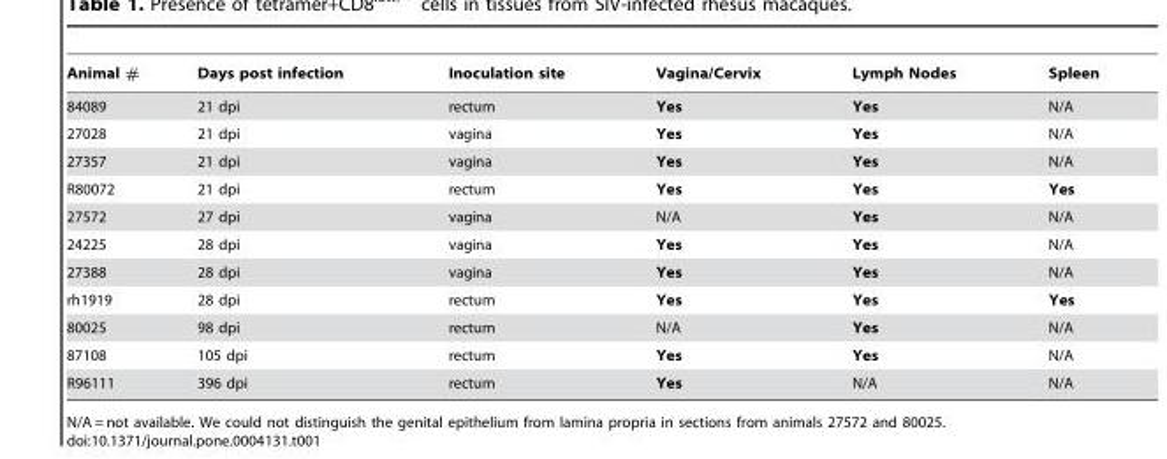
<table><thead><tr><td>Animal #</td><td>Days post infection</td><td>Inoculation site</td><td>Vagina/Cervix</td><td>Lymph Nodes</td><td>Spleen</td></tr></thead><tbody><tr><td>84089</td><td>21 dpi</td><td>rectum</td><td>Yes</td><td>Yes</td><td>N/A</td></tr><tr><td>27028</td><td>21 dpi</td><td>vagina</td><td>Yes</td><td>Yes</td><td>N/A</td></tr><tr><td>27357</td><td>21 dpi</td><td>vagina</td><td>Yes</td><td>Yes</td><td>N/A</td></tr><tr><td>R80072</td><td>21 dpi</td><td>rectum</td><td>Yes</td><td>Yes</td><td>Yes</td></tr><tr><td>27572</td><td>27 dpi</td><td>vagina</td><td>N/A</td><td>Yes</td><td>N/A</td></tr><tr><td>24225</td><td>28 dpi</td><td>vagina</td><td>Yes</td><td>Yes</td><td>N/A</td></tr><tr><td>27388</td><td>28 dpi</td><td>vagina</td><td>Yes</td><td>Yes</td><td>N/A</td></tr><tr><td>rh1919</td><td>28 dpi</td><td>rectum</td><td>Yes</td><td>Yes</td><td>Yes</td></tr><tr><td>80025</td><td>98 dpi</td><td>rectum</td><td>N/A</td><td>Yes</td><td>N/A</td></tr><tr><td>87108</td><td>105 dpi</td><td>rectum</td><td>Yes</td><td>Yes</td><td>N/A</td></tr><tr><td>R96111</td><td>396 dpi</td><td>rectum</td><td>Yes</td><td>N/A</td><td>N/A</td></tr></tbody></table>